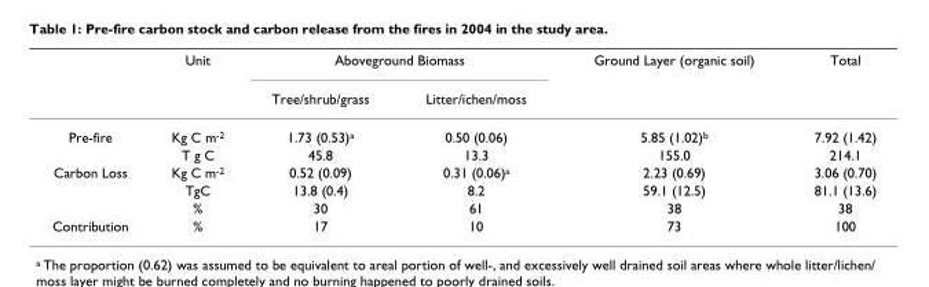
<table><thead><tr><td rowspan="2"></td><td rowspan="2">Unit</td><td colspan="2">Aboveground Biomass</td><td rowspan="2">Ground Layer (organic soil)</td><td rowspan="2">Total</td></tr><tr><td>Tree/shrub/grass</td><td>Litter/ichen/moss</td></tr></thead><tbody><tr><td rowspan="2">Pre-fire</td><td>Kg C m<sup>-2</sup></td><td>1.73 (0.53)<sup>a</sup></td><td>0.50 (0.06)</td><td>5.85 (1.02)<sup>b</sup></td><td>7.92 (1.42)</td></tr><tr><td>T g C</td><td>45.8</td><td>13.3</td><td>155.0</td><td>214.1</td></tr><tr><td rowspan="3">Carbon Loss</td><td>Kg C m<sup>-2</sup></td><td>0.52 (0.09)</td><td>0.31 (0.06)<sup>a</sup></td><td>2.23 (0.69)</td><td>3.06 (0.70)</td></tr><tr><td>TgC</td><td>13.8 (0.4)</td><td>8.2</td><td>59.1 (12.5)</td><td>81.1 (13.6)</td></tr><tr><td>%</td><td>30</td><td>61</td><td>38</td><td>38</td></tr><tr><td>Contribution</td><td>%</td><td>17</td><td>10</td><td>73</td><td>100</td></tr></tbody></table>